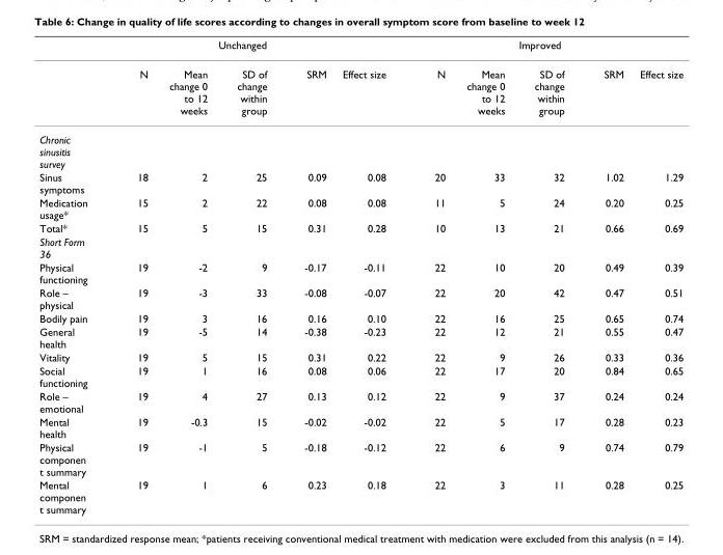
<table><thead><tr><td rowspan="2"></td><td colspan="5">Unchanged</td><td colspan="5">Improved</td></tr><tr><td>N</td><td>Mean change 0 to 12 weeks</td><td>SD of change within group</td><td>SRM</td><td>Effect size</td><td>N</td><td>Mean change 0 to 12 weeks</td><td>SD of change within group</td><td>SRM</td><td>Effect size</td></tr></thead><tbody><tr><td colspan="11">Chronic sinusitis survey</td></tr><tr><td>Sinus symptoms</td><td>18</td><td>2</td><td>25</td><td>0.09</td><td>0.08</td><td>20</td><td>33</td><td>32</td><td>1.02</td><td>1.29</td></tr><tr><td>Medication usage*</td><td>15</td><td>2</td><td>22</td><td>0.08</td><td>0.08</td><td>11</td><td>5</td><td>24</td><td>0.20</td><td>0.25</td></tr><tr><td>Total*</td><td>15</td><td>5</td><td>15</td><td>0.31</td><td>0.28</td><td>10</td><td>13</td><td>21</td><td>0.66</td><td>0.69</td></tr><tr><td colspan="11">Short Form 36</td></tr><tr><td>Physical functioning</td><td>19</td><td>-2</td><td>9</td><td>-0.17</td><td>-0.11</td><td>22</td><td>10</td><td>20</td><td>0.49</td><td>0.39</td></tr><tr><td>Role – physical</td><td>19</td><td>-3</td><td>33</td><td>-0.08</td><td>-0.07</td><td>22</td><td>20</td><td>42</td><td>0.47</td><td>0.51</td></tr><tr><td>Bodily pain</td><td>19</td><td>3</td><td>16</td><td>0.16</td><td>0.10</td><td>22</td><td>16</td><td>25</td><td>0.65</td><td>0.74</td></tr><tr><td>General health</td><td>19</td><td>-5</td><td>14</td><td>-0.38</td><td>-0.23</td><td>22</td><td>12</td><td>21</td><td>0.55</td><td>0.47</td></tr><tr><td>Vitality</td><td>19</td><td>5</td><td>15</td><td>0.31</td><td>0.22</td><td>22</td><td>9</td><td>26</td><td>0.33</td><td>0.36</td></tr><tr><td>Social functioning</td><td>19</td><td>1</td><td>16</td><td>0.08</td><td>0.06</td><td>22</td><td>17</td><td>20</td><td>0.84</td><td>0.65</td></tr><tr><td>Role – emotional</td><td>19</td><td>4</td><td>27</td><td>0.13</td><td>0.12</td><td>22</td><td>9</td><td>37</td><td>0.24</td><td>0.24</td></tr><tr><td>Mental health</td><td>19</td><td>-0.3</td><td>15</td><td>-0.02</td><td>-0.02</td><td>22</td><td>5</td><td>17</td><td>0.28</td><td>0.23</td></tr><tr><td>Physical componen t summary</td><td>19</td><td>-1</td><td>5</td><td>-0.18</td><td>-0.12</td><td>22</td><td>6</td><td>9</td><td>0.74</td><td>0.79</td></tr><tr><td>Mental componen t summary</td><td>19</td><td>1</td><td>6</td><td>0.23</td><td>0.18</td><td>22</td><td>3</td><td>11</td><td>0.28</td><td>0.25</td></tr></tbody></table>